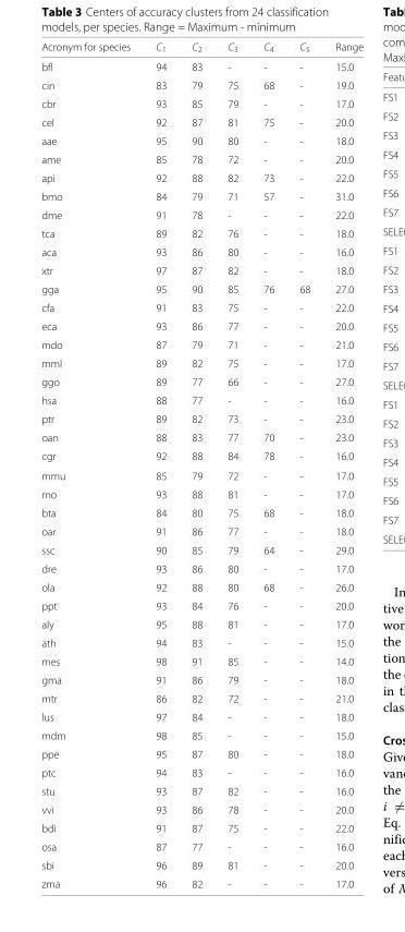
<table><thead><tr><td>Acronym for species</td><td>C<sub>1</sub></td><td>C<sub>2</sub></td><td>C<sub>3</sub></td><td>C<sub>4</sub></td><td>C<sub>5</sub></td><td>Range</td></tr></thead><tbody><tr><td>bfl</td><td>94</td><td>83</td><td>-</td><td>-</td><td>-</td><td>15.0</td></tr><tr><td>cin</td><td>83</td><td>79</td><td>75</td><td>68</td><td>-</td><td>19.0</td></tr><tr><td>cbr</td><td>93</td><td>85</td><td>79</td><td>-</td><td>-</td><td>17.0</td></tr><tr><td>cel</td><td>92</td><td>87</td><td>81</td><td>75</td><td>-</td><td>20.0</td></tr><tr><td>aae</td><td>95</td><td>90</td><td>80</td><td>-</td><td>-</td><td>18.0</td></tr><tr><td>ame</td><td>85</td><td>78</td><td>72</td><td>-</td><td>-</td><td>20.0</td></tr><tr><td>api</td><td>92</td><td>88</td><td>82</td><td>73</td><td>-</td><td>22.0</td></tr><tr><td>bmo</td><td>84</td><td>79</td><td>71</td><td>57</td><td>-</td><td>31.0</td></tr><tr><td>dme</td><td>91</td><td>78</td><td>-</td><td>-</td><td>-</td><td>22.0</td></tr><tr><td>tca</td><td>89</td><td>82</td><td>76</td><td>-</td><td>-</td><td>18.0</td></tr><tr><td>aca</td><td>93</td><td>86</td><td>80</td><td>-</td><td>-</td><td>16.0</td></tr><tr><td>xtr</td><td>97</td><td>87</td><td>82</td><td>-</td><td>-</td><td>18.0</td></tr><tr><td>gga</td><td>95</td><td>90</td><td>85</td><td>76</td><td>68</td><td>27.0</td></tr><tr><td>cfa</td><td>91</td><td>83</td><td>75</td><td>-</td><td>-</td><td>22.0</td></tr><tr><td>eca</td><td>93</td><td>86</td><td>77</td><td>-</td><td>-</td><td>20.0</td></tr><tr><td>mdo</td><td>87</td><td>79</td><td>71</td><td>-</td><td>-</td><td>21.0</td></tr><tr><td>mml</td><td>89</td><td>82</td><td>75</td><td>-</td><td>-</td><td>17.0</td></tr><tr><td>ggo</td><td>89</td><td>77</td><td>66</td><td>-</td><td>-</td><td>27.0</td></tr><tr><td>hsa</td><td>88</td><td>77</td><td>-</td><td>-</td><td>-</td><td>16.0</td></tr><tr><td>ptr</td><td>89</td><td>82</td><td>73</td><td>-</td><td>-</td><td>23.0</td></tr><tr><td>oan</td><td>88</td><td>83</td><td>77</td><td>70</td><td>-</td><td>23.0</td></tr><tr><td>cgr</td><td>92</td><td>88</td><td>84</td><td>78</td><td>-</td><td>16.0</td></tr><tr><td>mmu</td><td>85</td><td>79</td><td>72</td><td>-</td><td>-</td><td>17.0</td></tr><tr><td>rno</td><td>93</td><td>88</td><td>81</td><td>-</td><td>-</td><td>17.0</td></tr><tr><td>bta</td><td>84</td><td>80</td><td>75</td><td>68</td><td>-</td><td>18.0</td></tr><tr><td>oar</td><td>91</td><td>86</td><td>77</td><td>-</td><td>-</td><td>18.0</td></tr><tr><td>ssc</td><td>90</td><td>85</td><td>79</td><td>64</td><td>-</td><td>29.0</td></tr><tr><td>dre</td><td>93</td><td>86</td><td>80</td><td>-</td><td>-</td><td>17.0</td></tr><tr><td>ola</td><td>92</td><td>88</td><td>80</td><td>68</td><td>-</td><td>26.0</td></tr><tr><td>ppt</td><td>93</td><td>84</td><td>76</td><td>-</td><td>-</td><td>20.0</td></tr><tr><td>aly</td><td>95</td><td>88</td><td>81</td><td>-</td><td>-</td><td>17.0</td></tr><tr><td>ath</td><td>94</td><td>83</td><td>-</td><td>-</td><td>-</td><td>15.0</td></tr><tr><td>mes</td><td>98</td><td>91</td><td>85</td><td>-</td><td>-</td><td>14.0</td></tr><tr><td>gma</td><td>91</td><td>86</td><td>79</td><td>-</td><td>-</td><td>18.0</td></tr><tr><td>mtr</td><td>86</td><td>82</td><td>72</td><td>-</td><td>-</td><td>21.0</td></tr><tr><td>lus</td><td>97</td><td>84</td><td>-</td><td>-</td><td>-</td><td>18.0</td></tr><tr><td>mdm</td><td>98</td><td>85</td><td>-</td><td>-</td><td>-</td><td>15.0</td></tr><tr><td>ppe</td><td>95</td><td>87</td><td>80</td><td>-</td><td>-</td><td>18.0</td></tr><tr><td>ptc</td><td>94</td><td>83</td><td>-</td><td>-</td><td>-</td><td>16.0</td></tr><tr><td>stu</td><td>93</td><td>87</td><td>82</td><td>-</td><td>-</td><td>16.0</td></tr><tr><td>vvi</td><td>93</td><td>86</td><td>78</td><td>-</td><td>-</td><td>20.0</td></tr><tr><td>bdi</td><td>91</td><td>87</td><td>75</td><td>-</td><td>-</td><td>22.0</td></tr><tr><td>osa</td><td>87</td><td>77</td><td>-</td><td>-</td><td>-</td><td>16.0</td></tr><tr><td>sbi</td><td>96</td><td>89</td><td>81</td><td>-</td><td>-</td><td>20.0</td></tr><tr><td>zma</td><td>96</td><td>82</td><td>-</td><td>-</td><td>-</td><td>17.0</td></tr></tbody></table>